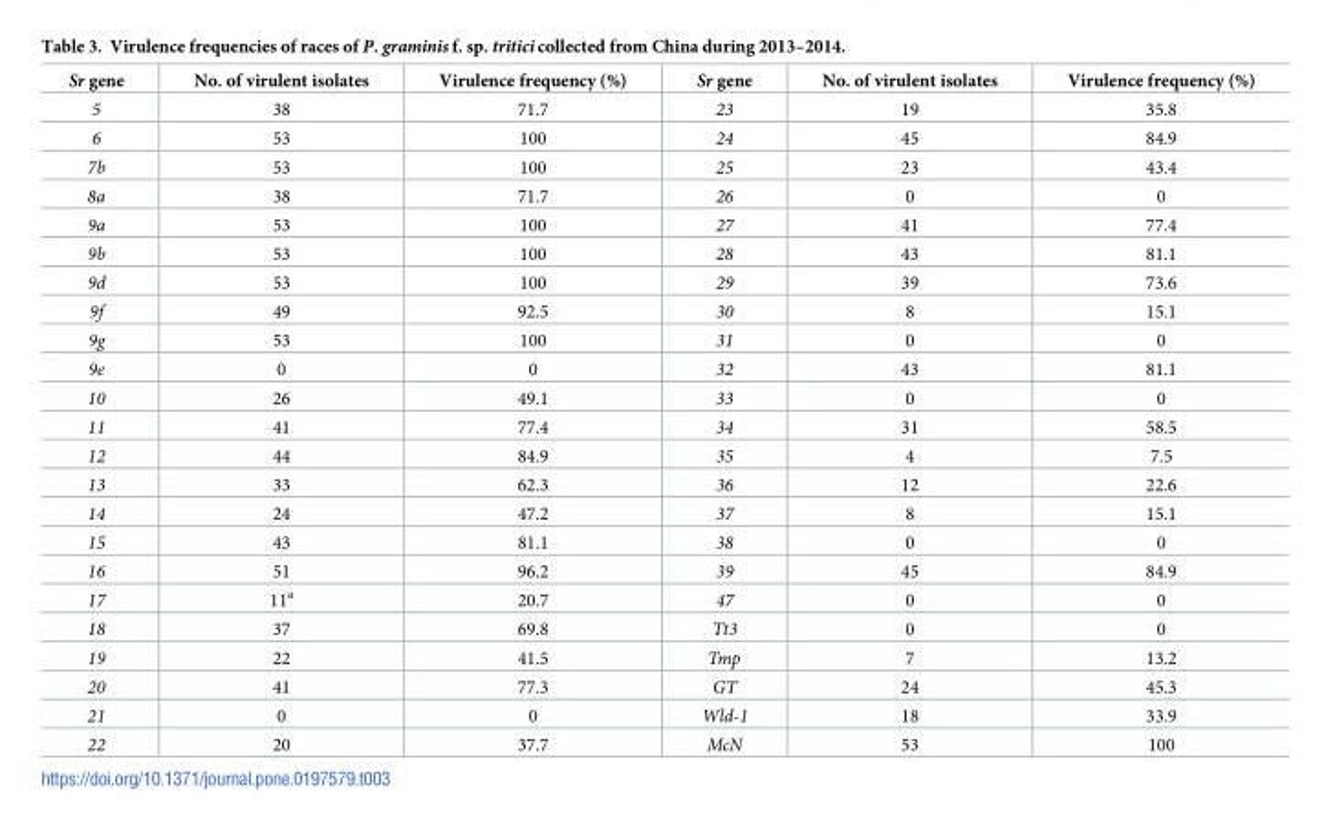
<table><thead><tr><td>Sr gene</td><td>No. of virulent isolates</td><td>Virulence frequency (%)</td><td>Sr gene</td><td>No. of virulent isolates</td><td>Virulence frequency (%)</td></tr></thead><tbody><tr><td>5</td><td>38</td><td>71.7</td><td>23</td><td>19</td><td>35.8</td></tr><tr><td>6</td><td>53</td><td>100</td><td>24</td><td>45</td><td>84.9</td></tr><tr><td>7b</td><td>53</td><td>100</td><td>25</td><td>23</td><td>43.4</td></tr><tr><td>8a</td><td>38</td><td>71.7</td><td>26</td><td>0</td><td>0</td></tr><tr><td>9a</td><td>53</td><td>100</td><td>27</td><td>41</td><td>77.4</td></tr><tr><td>9b</td><td>53</td><td>100</td><td>28</td><td>43</td><td>81.1</td></tr><tr><td>9d</td><td>53</td><td>100</td><td>29</td><td>39</td><td>73.6</td></tr><tr><td>9f</td><td>49</td><td>92.5</td><td>30</td><td>8</td><td>15.1</td></tr><tr><td>9g</td><td>53</td><td>100</td><td>31</td><td>0</td><td>0</td></tr><tr><td>9e</td><td>0</td><td>0</td><td>32</td><td>43</td><td>81.1</td></tr><tr><td>10</td><td>26</td><td>49.1</td><td>33</td><td>0</td><td>0</td></tr><tr><td>11</td><td>41</td><td>77.4</td><td>34</td><td>31</td><td>58.5</td></tr><tr><td>12</td><td>44</td><td>84.9</td><td>35</td><td>4</td><td>7.5</td></tr><tr><td>13</td><td>33</td><td>62.3</td><td>36</td><td>12</td><td>22.6</td></tr><tr><td>14</td><td>24</td><td>47.2</td><td>37</td><td>8</td><td>15.1</td></tr><tr><td>15</td><td>43</td><td>81.1</td><td>38</td><td>0</td><td>0</td></tr><tr><td>16</td><td>51</td><td>96.2</td><td>39</td><td>45</td><td>84.9</td></tr><tr><td>17</td><td>11<sup>a</sup></td><td>20.7</td><td>47</td><td>0</td><td>0</td></tr><tr><td>18</td><td>37</td><td>69.8</td><td>Tt3</td><td>0</td><td>0</td></tr><tr><td>19</td><td>22</td><td>41.5</td><td>Tmp</td><td>7</td><td>13.2</td></tr><tr><td>20</td><td>41</td><td>77.3</td><td>GT</td><td>24</td><td>45.3</td></tr><tr><td>21</td><td>0</td><td>0</td><td>Wld-1</td><td>18</td><td>33.9</td></tr><tr><td>22</td><td>20</td><td>37.7</td><td>McN</td><td>53</td><td>100</td></tr></tbody></table>